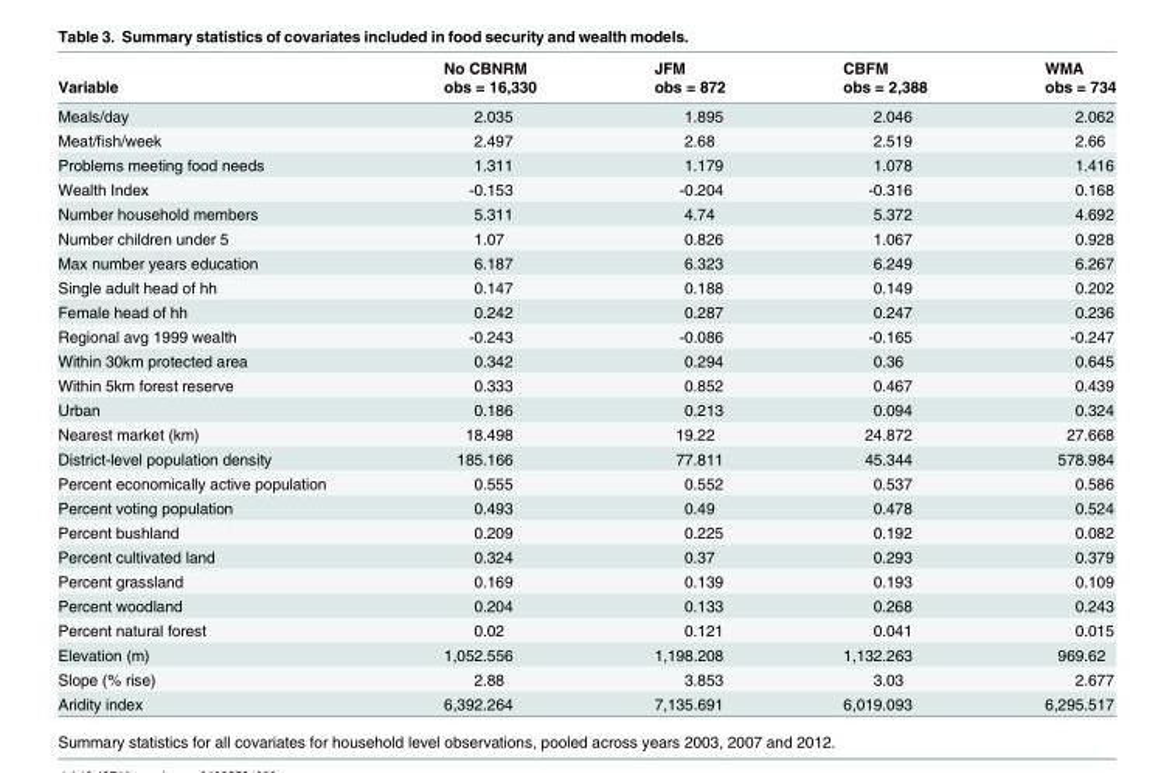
<table><thead><tr><td rowspan="2">Variable</td><td rowspan="2">No CBNRM obs = 16,330</td><td rowspan="2">JFM obs = 872</td><td rowspan="2">CBFM obs = 2,388</td><td rowspan="2">WMA obs = 734</td></tr><tr></tr></thead><tbody><tr><td>Meals/day</td><td>2.035</td><td>1.895</td><td>2.046</td><td>2.062</td></tr><tr><td>Meat/fish/week</td><td>2.497</td><td>2.68</td><td>2.519</td><td>2.66</td></tr><tr><td>Problems meeting food needs</td><td>1.311</td><td>1.179</td><td>1.078</td><td>1.416</td></tr><tr><td>Wealth Index</td><td>-0.153</td><td>-0.204</td><td>-0.316</td><td>0.168</td></tr><tr><td>Number household members</td><td>5.311</td><td>4.74</td><td>5.372</td><td>4.692</td></tr><tr><td>Number children under 5</td><td>1.07</td><td>0.826</td><td>1.067</td><td>0.928</td></tr><tr><td>Max number years education</td><td>6.187</td><td>6.323</td><td>6.249</td><td>6.267</td></tr><tr><td>Single adult head of hh</td><td>0.147</td><td>0.188</td><td>0.149</td><td>0.202</td></tr><tr><td>Female head of hh</td><td>0.242</td><td>0.287</td><td>0.247</td><td>0.236</td></tr><tr><td>Regional avg 1999 wealth</td><td>-0.243</td><td>-0.086</td><td>-0.165</td><td>-0.247</td></tr><tr><td>Within 30km protected area</td><td>0.342</td><td>0.294</td><td>0.36</td><td>0.645</td></tr><tr><td>Within 5km forest reserve</td><td>0.333</td><td>0.852</td><td>0.467</td><td>0.439</td></tr><tr><td>Urban</td><td>0.186</td><td>0.213</td><td>0.094</td><td>0.324</td></tr><tr><td>Nearest market (km)</td><td>18.498</td><td>19.22</td><td>24.872</td><td>27.668</td></tr><tr><td>District-level population density</td><td>185.166</td><td>77.811</td><td>45.344</td><td>578.984</td></tr><tr><td>Percent economically active population</td><td>0.555</td><td>0.552</td><td>0.537</td><td>0.586</td></tr><tr><td>Percent voting population</td><td>0.493</td><td>0.49</td><td>0.478</td><td>0.524</td></tr><tr><td>Percent bushland</td><td>0.209</td><td>0.225</td><td>0.192</td><td>0.082</td></tr><tr><td>Percent cultivated land</td><td>0.324</td><td>0.37</td><td>0.293</td><td>0.379</td></tr><tr><td>Percent grassland</td><td>0.169</td><td>0.139</td><td>0.193</td><td>0.109</td></tr><tr><td>Percent woodland</td><td>0.204</td><td>0.133</td><td>0.268</td><td>0.243</td></tr><tr><td>Percent natural forest</td><td>0.02</td><td>0.121</td><td>0.041</td><td>0.015</td></tr><tr><td>Elevation (m)</td><td>1,052.556</td><td>1,198.208</td><td>1,132.263</td><td>969.62</td></tr><tr><td>Slope (% rise)</td><td>2.88</td><td>3.853</td><td>3.03</td><td>2.677</td></tr><tr><td>Aridity index</td><td>6,392.264</td><td>7,135.691</td><td>6,019.093</td><td>6,295.517</td></tr></tbody></table>